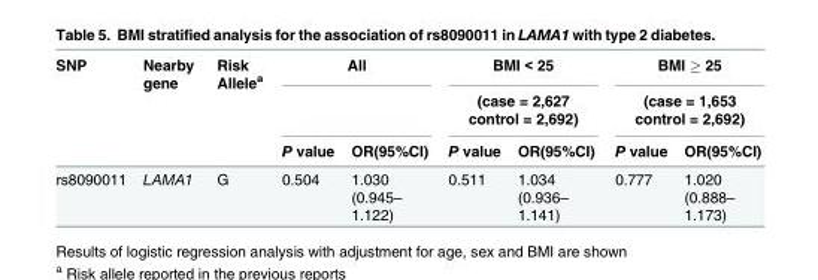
<table><thead><tr><td rowspan="3">SNP</td><td rowspan="3">Nearby gene</td><td rowspan="3">Risk Allele<sup>a</sup></td><td colspan="2">All</td><td rowspan="2" colspan="2">BMI &lt; 25 (case = 2,627 control = 2,692)</td><td rowspan="2" colspan="2">BMI ≥ 25 (case = 1,653 control = 2,692)</td></tr><tr><td rowspan="2">P value</td><td rowspan="2">OR(95%CI)</td></tr><tr><td>P value</td><td>OR(95%CI)</td><td>P value</td><td>OR(95%CI)</td></tr></thead><tbody><tr><td>rs8090011</td><td>LAMA1</td><td>G</td><td>0.504</td><td>1.030 (0.945– 1.122)</td><td>0.511</td><td>1.034 (0.936– 1.141)</td><td>0.777</td><td>1.020 (0.888– 1.173)</td></tr></tbody></table>